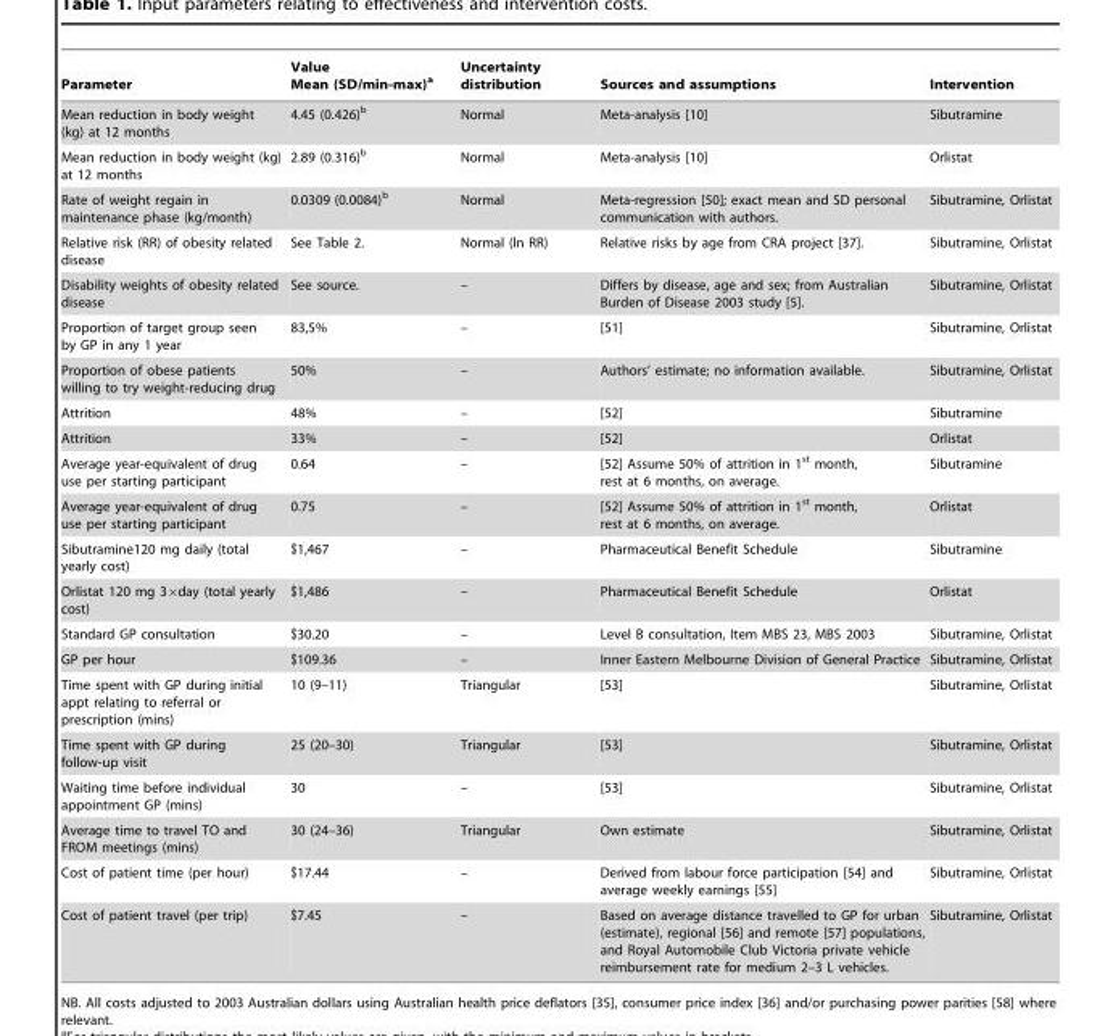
<table><thead><tr><td>Parameter</td><td>Value Mean (SD/min-max)<sup>a</sup></td><td>Uncertainty distribution</td><td>Sources and assumptions</td><td>Intervention</td></tr></thead><tbody><tr><td>Mean reduction in body weight (kg) at 12 months</td><td>4.45 (0.426)<sup>b</sup></td><td>Normal</td><td>Meta-analysis [10]</td><td>Sibutramine</td></tr><tr><td>Mean reduction in body weight (kg) at 12 months</td><td>2.89 (0.316)<sup>b</sup></td><td>Normal</td><td>Meta-analysis [10]</td><td>Orlistat</td></tr><tr><td>Rate of weight regain in maintenance phase (kg/month)</td><td>0.0309 (0.0084)<sup>b</sup></td><td>Normal</td><td>Meta-regression [50]; exact mean and SD personal communication with authors.</td><td>Sibutramine, Orlistat</td></tr><tr><td>Relative risk (RR) of obesity related disease</td><td>See Table 2.</td><td>Normal (ln RR)</td><td>Relative risks by age from CRA project [37].</td><td>Sibutramine, Orlistat</td></tr><tr><td>Disability weights of obesity related disease</td><td>See source.</td><td>–</td><td>Differs by disease, age and sex; from Australian Burden of Disease 2003 study [5].</td><td>Sibutramine, Orlistat</td></tr><tr><td>Proportion of target group seen by GP in any 1 year</td><td>83,5%</td><td>–</td><td>[51]</td><td>Sibutramine, Orlistat</td></tr><tr><td>Proportion of obese patients willing to try weight-reducing drug</td><td>50%</td><td>–</td><td>Authors’ estimate; no information available.</td><td>Sibutramine, Orlistat</td></tr><tr><td>Attrition</td><td>48%</td><td>–</td><td>[52]</td><td>Sibutramine</td></tr><tr><td>Attrition</td><td>33%</td><td>–</td><td>[52]</td><td>Orlistat</td></tr><tr><td>Average year-equivalent of drug use per starting participant</td><td>0.64</td><td>–</td><td>[52] Assume 50% of attrition in 1<sup>st</sup> month, rest at 6 months, on average.</td><td>Sibutramine</td></tr><tr><td>Average year-equivalent of drug use per starting participant</td><td>0.75</td><td>–</td><td>[52] Assume 50% of attrition in 1<sup>st</sup> month, rest at 6 months, on average.</td><td>Orlistat</td></tr><tr><td>Sibutramine120 mg daily (total yearly cost)</td><td>$1,467</td><td>–</td><td>Pharmaceutical Benefit Schedule</td><td>Sibutramine</td></tr><tr><td>Orlistat 120 mg 3×day (total yearly cost)</td><td>$1,486</td><td>–</td><td>Pharmaceutical Benefit Schedule</td><td>Orlistat</td></tr><tr><td>Standard GP consultation</td><td>$30.20</td><td>–</td><td>Level B consultation, Item MBS 23, MBS 2003</td><td>Sibutramine, Orlistat</td></tr><tr><td>GP per hour</td><td>$109.36</td><td>–</td><td>Inner Eastern Melbourne Division of General Practice</td><td>Sibutramine, Orlistat</td></tr><tr><td>Time spent with GP during initial appt relating to referral or prescription (mins)</td><td>10 (9–11)</td><td>Triangular</td><td>[53]</td><td>Sibutramine, Orlistat</td></tr><tr><td>Time spent with GP during follow-up visit</td><td>25 (20–30)</td><td>Triangular</td><td>[53]</td><td>Sibutramine, Orlistat</td></tr><tr><td>Waiting time before individual appointment GP (mins)</td><td>30</td><td>–</td><td>[53]</td><td>Sibutramine, Orlistat</td></tr><tr><td>Average time to travel TO and FROM meetings (mins)</td><td>30 (24–36)</td><td>Triangular</td><td>Own estimate</td><td>Sibutramine, Orlistat</td></tr><tr><td>Cost of patient time (per hour)</td><td>$17.44</td><td>–</td><td>Derived from labour force participation [54] and average weekly earnings [55]</td><td>Sibutramine, Orlistat</td></tr><tr><td>Cost of patient travel (per trip)</td><td>$7.45</td><td>–</td><td>Based on average distance travelled to GP for urban (estimate), regional [56] and remote [57] populations, and Royal Automobile Club Victoria private vehicle reimbursement rate for medium 2–3 L vehicles.</td><td>Sibutramine, Orlistat</td></tr></tbody></table>